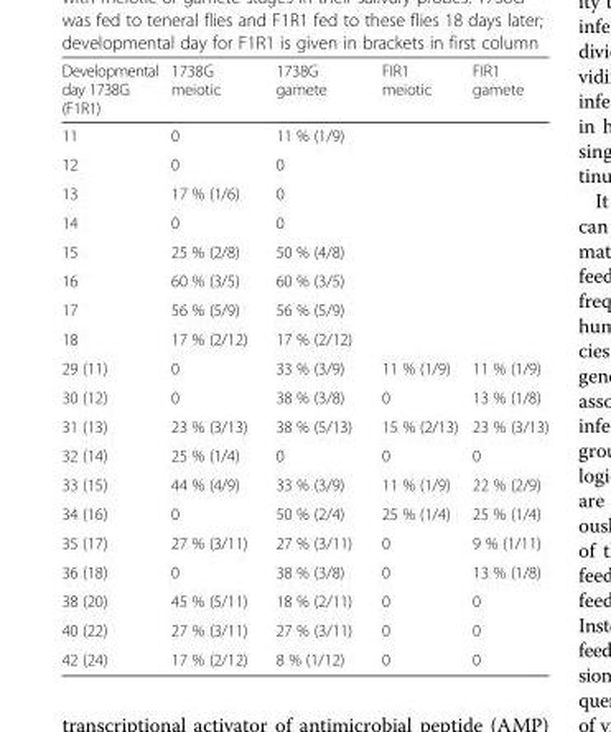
<table><thead><tr><td>Developmental day 1738G (F1R1)</td><td>1738G meiotic</td><td>1738G gamete</td><td>FIR1 meiotic</td><td>FIR1 gamete</td></tr></thead><tbody><tr><td>11</td><td>0</td><td>11 % (1/9)</td><td></td><td></td></tr><tr><td>12</td><td>0</td><td>0</td><td></td><td></td></tr><tr><td>13</td><td>17 % (1/6)</td><td>0</td><td></td><td></td></tr><tr><td>14</td><td>0</td><td>0</td><td></td><td></td></tr><tr><td>15</td><td>25 % (2/8)</td><td>50 % (4/8)</td><td></td><td></td></tr><tr><td>16</td><td>60 % (3/5)</td><td>60 % (3/5)</td><td></td><td></td></tr><tr><td>17</td><td>56 % (5/9)</td><td>56 % (5/9)</td><td></td><td></td></tr><tr><td>18</td><td>17 % (2/12)</td><td>17 % (2/12)</td><td></td><td></td></tr><tr><td>29 (11)</td><td>0</td><td>33 % (3/9)</td><td>11 % (1/9)</td><td>11 % (1/9)</td></tr><tr><td>30 (12)</td><td>0</td><td>38 % (3/8)</td><td>0</td><td>13 % (1/8)</td></tr><tr><td>31 (13)</td><td>23 % (3/13)</td><td>38 % (5/13)</td><td>15 % (2/13)</td><td>23 % (3/13)</td></tr><tr><td>32 (14)</td><td>25 % (1/4)</td><td>0</td><td>0</td><td>0</td></tr><tr><td>33 (15)</td><td>44 % (4/9)</td><td>33 % (3/9)</td><td>11 % (1/9)</td><td>22 % (2/9)</td></tr><tr><td>34 (16)</td><td>0</td><td>50 % (2/4)</td><td>25 % (1/4)</td><td>25 % (1/4)</td></tr><tr><td>35 (17)</td><td>27 % (3/11)</td><td>27 % (3/11)</td><td>0</td><td>9 % (1/11)</td></tr><tr><td>36 (18)</td><td>0</td><td>38 % (3/8)</td><td>0</td><td>13 % (1/8)</td></tr><tr><td>38 (20)</td><td>45 % (5/11)</td><td>18 % (2/11)</td><td>0</td><td>0</td></tr><tr><td>40 (22)</td><td>27 % (3/11)</td><td>27 % (3/11)</td><td>0</td><td>0</td></tr><tr><td>42 (24)</td><td>17 % (2/12)</td><td>8 % (1/12)</td><td>0</td><td>0</td></tr></tbody></table>